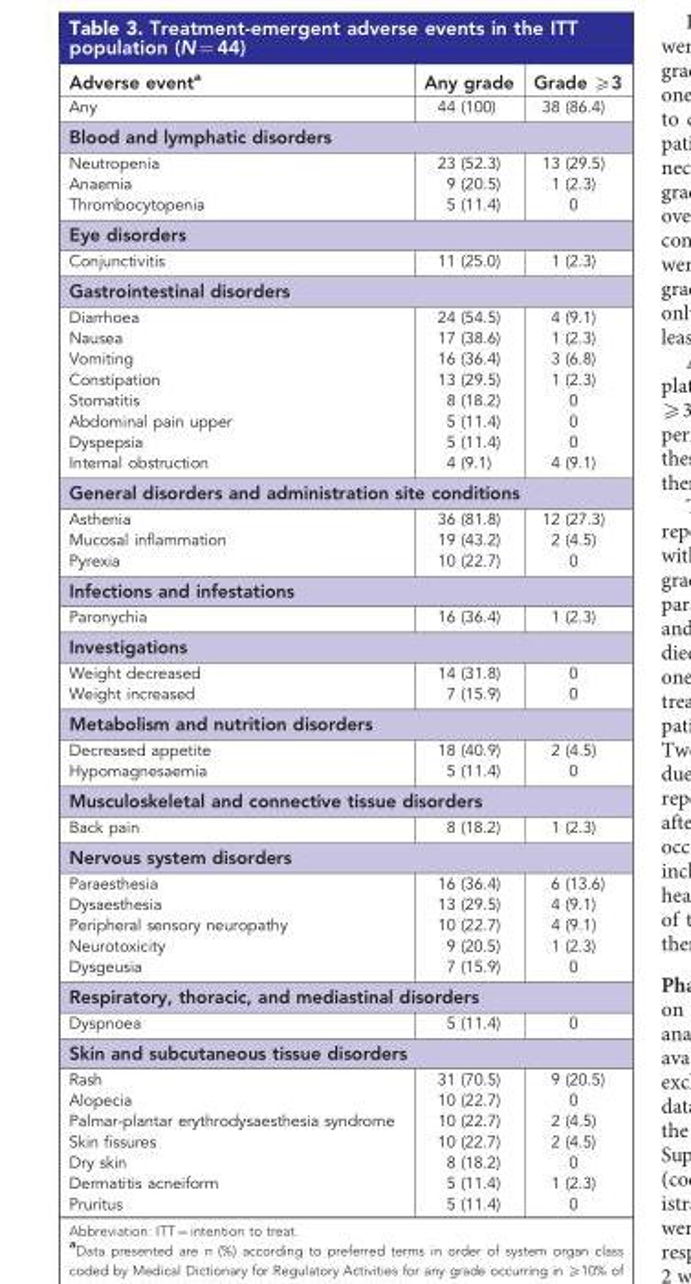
<table><thead><tr><td>Adverse event<sup>a</sup></td><td>Any grade</td><td>Grade ⩾3</td></tr></thead><tbody><tr><td>Any</td><td>44 (100)</td><td>38 (86.4)</td></tr><tr><td colspan="3">Blood and lymphatic disorders</td></tr><tr><td>Neutropenia</td><td>23 (52.3)</td><td>13 (29.5)</td></tr><tr><td>Anaemia</td><td>9 (20.5)</td><td>1 (2.3)</td></tr><tr><td>Thrombocytopenia</td><td>5 (11.4)</td><td>0</td></tr><tr><td colspan="3">Eye disorders</td></tr><tr><td>Conjunctivitis</td><td>11 (25.0)</td><td>1 (2.3)</td></tr><tr><td colspan="3">Gastrointestinal disorders</td></tr><tr><td>Diarrhoea</td><td>24 (54.5)</td><td>4 (9.1)</td></tr><tr><td>Nausea</td><td>17 (38.6)</td><td>1 (2.3)</td></tr><tr><td>Vomiting</td><td>16 (36.4)</td><td>3 (6.8)</td></tr><tr><td>Constipation</td><td>13 (29.5)</td><td>1 (2.3)</td></tr><tr><td>Stomatitis</td><td>8 (18.2)</td><td>0</td></tr><tr><td>Abdominal pain upper</td><td>5 (11.4)</td><td>0</td></tr><tr><td>Dyspepsia</td><td>5 (11.4)</td><td>0</td></tr><tr><td>Internal obstruction</td><td>4 (9.1)</td><td>4 (9.1)</td></tr><tr><td colspan="3">General disorders and administration site conditions</td></tr><tr><td>Asthenia</td><td>36 (81.8)</td><td>12 (27.3)</td></tr><tr><td>Mucosal inflammation</td><td>19 (43.2)</td><td>2 (4.5)</td></tr><tr><td>Pyrexia</td><td>10 (22.7)</td><td>0</td></tr><tr><td colspan="3">Infections and infestations</td></tr><tr><td>Paronychia</td><td>16 (36.4)</td><td>1 (2.3)</td></tr><tr><td colspan="3">Investigations</td></tr><tr><td>Weight decreased</td><td>14 (31.8)</td><td>0</td></tr><tr><td>Weight increased</td><td>7 (15.9)</td><td>0</td></tr><tr><td colspan="3">Metabolism and nutrition disorders</td></tr><tr><td>Decreased appetite</td><td>18 (40.9)</td><td>2 (4.5)</td></tr><tr><td>Hypomagnesaemia</td><td>5 (11.4)</td><td>0</td></tr><tr><td colspan="3">Musculoskeletal and connective tissue disorders</td></tr><tr><td>Back pain</td><td>8 (18.2)</td><td>1 (2.3)</td></tr><tr><td colspan="3">Nervous system disorders</td></tr><tr><td>Paraesthesia</td><td>16 (36.4)</td><td>6 (13.6)</td></tr><tr><td>Dysaesthesia</td><td>13 (29.5)</td><td>4 (9.1)</td></tr><tr><td>Peripheral sensory neuropathy</td><td>10 (22.7)</td><td>4 (9.1)</td></tr><tr><td>Neurotoxicity</td><td>9 (20.5)</td><td>1 (2.3)</td></tr><tr><td>Dysgeusia</td><td>7 (15.9)</td><td>0</td></tr><tr><td colspan="3">Respiratory, thoracic, and mediastinal disorders</td></tr><tr><td>Dyspnoea</td><td>5 (11.4)</td><td>0</td></tr><tr><td colspan="3">Skin and subcutaneous tissue disorders</td></tr><tr><td>Rash</td><td>31 (70.5)</td><td>9 (20.5)</td></tr><tr><td>Alopecia</td><td>10 (22.7)</td><td>0</td></tr><tr><td>Palmar-plantar erythrodysaesthesia syndrome</td><td>10 (22.7)</td><td>2 (4.5)</td></tr><tr><td>Skin fissures</td><td>10 (22.7)</td><td>2 (4.5)</td></tr><tr><td>Dry skin</td><td>8 (18.2)</td><td>0</td></tr><tr><td>Dermatitis acneiform</td><td>5 (11.4)</td><td>1 (2.3)</td></tr><tr><td>Pruritus</td><td>5 (11.4)</td><td>0</td></tr></tbody></table>